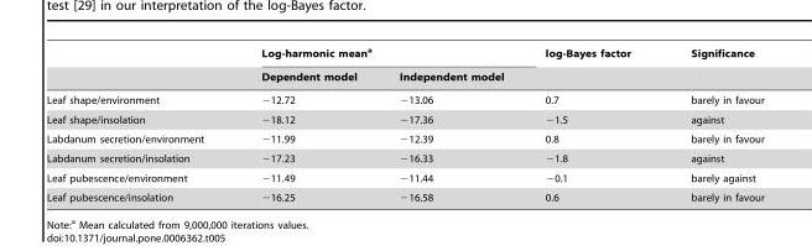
<table><thead><tr><td rowspan="2"></td><td colspan="2">Log-harmonic mean<sup>a</sup></td><td rowspan="2">log-Bayes factor</td><td rowspan="2">Significance</td></tr><tr><td>Dependent model</td><td>Independent model</td></tr></thead><tbody><tr><td>Leaf shape/environment</td><td>−12.72</td><td>−13.06</td><td>0.7</td><td>barely in favour</td></tr><tr><td>Leaf shape/insolation</td><td>−18.12</td><td>−17.36</td><td>−1.5</td><td>against</td></tr><tr><td>Labdanum secretion/environment</td><td>−11.99</td><td>−12.39</td><td>0.8</td><td>barely in favour</td></tr><tr><td>Labdanum secretion/insolation</td><td>−17.23</td><td>−16.33</td><td>−1.8</td><td>against</td></tr><tr><td>Leaf pubescence/environment</td><td>−11.49</td><td>−11.44</td><td>−0.1</td><td>barely against</td></tr><tr><td>Leaf pubescence/insolation</td><td>−16.25</td><td>−16.58</td><td>0.6</td><td>barely in favour</td></tr></tbody></table>